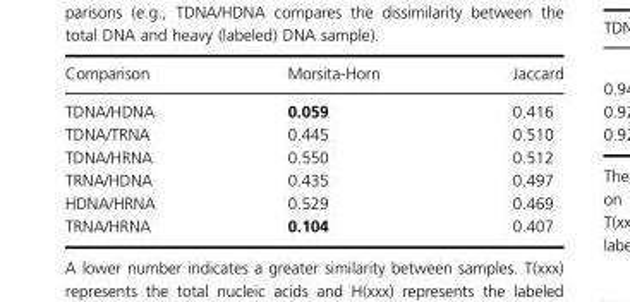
<table><thead><tr><td>Comparison</td><td>Morsita-Horn</td><td>Jaccard</td></tr></thead><tbody><tr><td>TDNA/HDNA</td><td>0.059</td><td>0.416</td></tr><tr><td>TDNA/TRNA</td><td>0.445</td><td>0.510</td></tr><tr><td>TDNA/HRNA</td><td>0.550</td><td>0.512</td></tr><tr><td>TRNA/HDNA</td><td>0.435</td><td>0.497</td></tr><tr><td>HDNA/HRNA</td><td>0.529</td><td>0.469</td></tr><tr><td>TRNA/HRNA</td><td>0.104</td><td>0.407</td></tr></tbody></table>